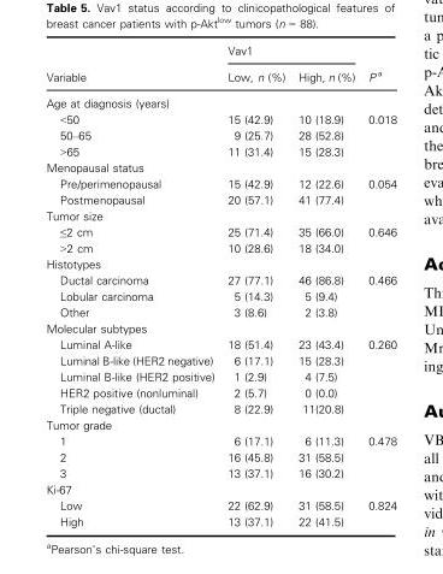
<table><thead><tr><td rowspan="2">Variable</td><td colspan="2">Vav1</td><td rowspan="2">P a</td></tr><tr><td>Low, n (%)</td><td>High, n (%)</td></tr></thead><tbody><tr><td colspan="4">Age at diagnosis (years)</td></tr><tr><td>&lt;50</td><td>15 (42.9)</td><td>10 (18.9)</td><td rowspan="3">0.018</td></tr><tr><td>50–65</td><td>9 (25.7)</td><td>28 (52.8)</td></tr><tr><td>&gt;65</td><td>11 (31.4)</td><td>15 (28.3)</td></tr><tr><td colspan="4">Menopausal status</td></tr><tr><td>Pre/perimenopausal</td><td>15 (42.9)</td><td>12 (22.6)</td><td rowspan="2">0.054</td></tr><tr><td>Postmenopausal</td><td>20 (57.1)</td><td>41 (77.4)</td></tr><tr><td colspan="4">Tumor size</td></tr><tr><td>≤2 cm</td><td>25 (71.4)</td><td>35 (66.0)</td><td rowspan="2">0.646</td></tr><tr><td>&gt;2 cm</td><td>10 (28.6)</td><td>18 (34.0)</td></tr><tr><td colspan="4">Histotypes</td></tr><tr><td>Ductal carcinoma</td><td>27 (77.1)</td><td>46 (86.8)</td><td rowspan="3">0.466</td></tr><tr><td>Lobular carcinoma</td><td>5 (14.3)</td><td>5 (9.4)</td></tr><tr><td>Other</td><td>3 (8.6)</td><td>2 (3.8)</td></tr><tr><td colspan="4">Molecular subtypes</td></tr><tr><td>Luminal A-like</td><td>18 (51.4)</td><td>23 (43.4)</td><td rowspan="5">0.260</td></tr><tr><td>Luminal B-like (HER2 negative)</td><td>6 (17.1)</td><td>15 (28.3)</td></tr><tr><td>Luminal B-like (HER2 positive)</td><td>1 (2.9)</td><td>4 (7.5)</td></tr><tr><td>HER2 positive (nonluminal)</td><td>2 (5.7)</td><td>0 (0.0)</td></tr><tr><td>Triple negative (ductal)</td><td>8 (22.9)</td><td>11(20.8)</td></tr><tr><td colspan="4">Tumor grade</td></tr><tr><td>1</td><td>6 (17.1)</td><td>6 (11.3)</td><td rowspan="3">0.478</td></tr><tr><td>2</td><td>16 (45.8)</td><td>31 (58.5)</td></tr><tr><td>3</td><td>13 (37.1)</td><td>16 (30.2)</td></tr><tr><td colspan="4">Ki-67</td></tr><tr><td>Low</td><td>22 (62.9)</td><td>31 (58.5)</td><td rowspan="2">0.824</td></tr><tr><td>High</td><td>13 (37.1)</td><td>22 (41.5)</td></tr></tbody></table>